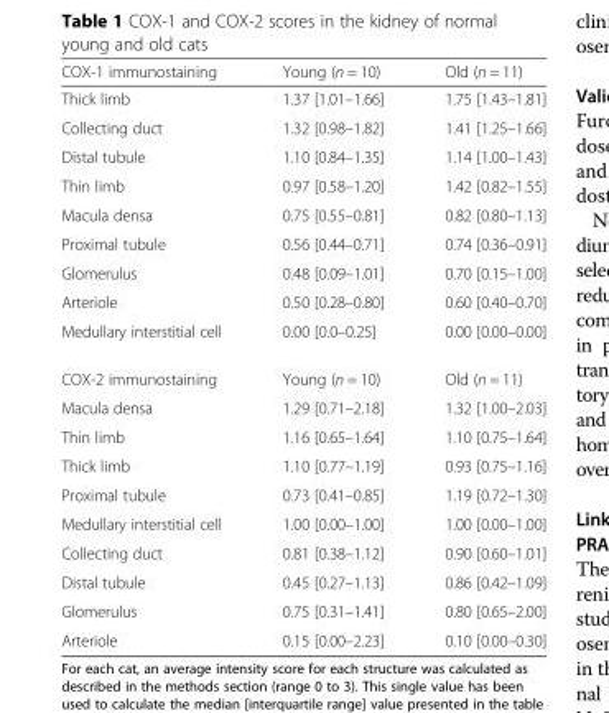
<table><thead><tr><td>COX-1 immunostaining</td><td>Young (n = 10)</td><td>Old (n = 11)</td></tr></thead><tbody><tr><td>Thick limb</td><td>1.37 [1.01–1.66]</td><td>1.75 [1.43–1.81]</td></tr><tr><td>Collecting duct</td><td>1.32 [0.98–1.82]</td><td>1.41 [1.25–1.66]</td></tr><tr><td>Distal tubule</td><td>1.10 [0.84–1.35]</td><td>1.14 [1.00–1.43]</td></tr><tr><td>Thin limb</td><td>0.97 [0.58–1.20]</td><td>1.42 [0.82–1.55]</td></tr><tr><td>Macula densa</td><td>0.75 [0.55–0.81]</td><td>0.82 [0.80–1.13]</td></tr><tr><td>Proximal tubule</td><td>0.56 [0.44–0.71]</td><td>0.74 [0.36–0.91]</td></tr><tr><td>Glomerulus</td><td>0.48 [0.09–1.01]</td><td>0.70 [0.15–1.00]</td></tr><tr><td>Arteriole</td><td>0.50 [0.28–0.80]</td><td>0.60 [0.40–0.70]</td></tr><tr><td>Medullary interstitial cell</td><td>0.00 [0.0–0.25]</td><td>0.00 [0.00–0.00]</td></tr><tr><td>COX-2 immunostaining</td><td>Young (n = 10)</td><td>Old (n = 11)</td></tr><tr><td>Macula densa</td><td>1.29 [0.71–2.18]</td><td>1.32 [1.00–2.03]</td></tr><tr><td>Thin limb</td><td>1.16 [0.65–1.64]</td><td>1.10 [0.75–1.64]</td></tr><tr><td>Thick limb</td><td>1.10 [0.77–1.19]</td><td>0.93 [0.75–1.16]</td></tr><tr><td>Proximal tubule</td><td>0.73 [0.41–0.85]</td><td>1.19 [0.72–1.30]</td></tr><tr><td>Medullary interstitial cell</td><td>1.00 [0.00–1.00]</td><td>1.00 [0.00–1.00]</td></tr><tr><td>Collecting duct</td><td>0.81 [0.38–1.12]</td><td>0.90 [0.60–1.01]</td></tr><tr><td>Distal tubule</td><td>0.45 [0.27–1.13]</td><td>0.86 [0.42–1.09]</td></tr><tr><td>Glomerulus</td><td>0.75 [0.31–1.41]</td><td>0.80 [0.65–2.00]</td></tr><tr><td>Arteriole</td><td>0.15 [0.00–2.23]</td><td>0.10 [0.00–0.30]</td></tr></tbody></table>